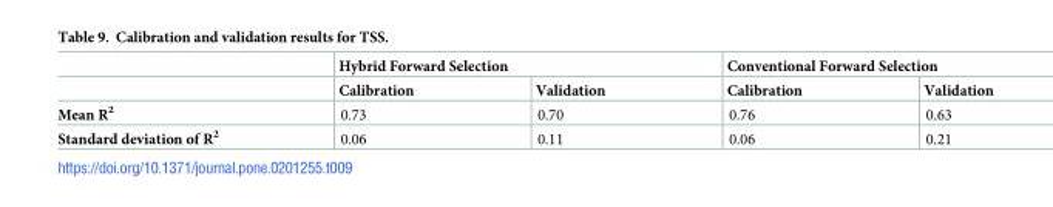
<table><thead><tr><td rowspan="2"></td><td colspan="2">Hybrid Forward Selection</td><td colspan="2">Conventional Forward Selection</td></tr><tr><td>Calibration</td><td>Validation</td><td>Calibration</td><td>Validation</td></tr></thead><tbody><tr><td>Mean R<sup>2</sup></td><td>0.73</td><td>0.70</td><td>0.76</td><td>0.63</td></tr><tr><td>Standard deviation of R<sup>2</sup></td><td>0.06</td><td>0.11</td><td>0.06</td><td>0.21</td></tr></tbody></table>